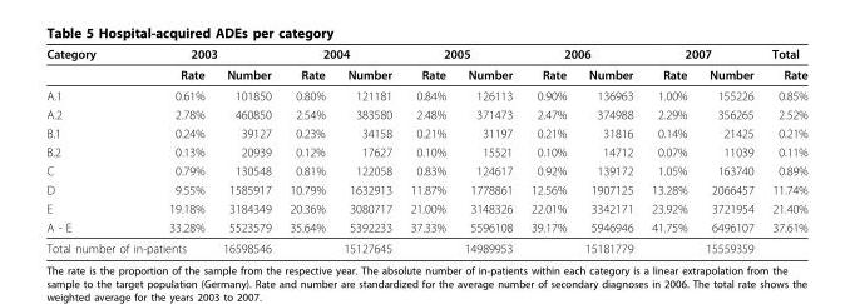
<table><thead><tr><td rowspan="2">Category</td><td colspan="2">2003</td><td colspan="2">2004</td><td colspan="2">2005</td><td colspan="2">2006</td><td colspan="2">2007</td><td rowspan="2">Total Rate</td></tr><tr><td>Rate</td><td>Number</td><td>Rate</td><td>Number</td><td>Rate</td><td>Number</td><td>Rate</td><td>Number</td><td>Rate</td><td>Number</td></tr></thead><tbody><tr><td>A.1</td><td>0.61%</td><td>101850</td><td>0.80%</td><td>121181</td><td>0.84%</td><td>126113</td><td>0.90%</td><td>136963</td><td>1.00%</td><td>155226</td><td>0.85%</td></tr><tr><td>A.2</td><td>2.78%</td><td>460850</td><td>2.54%</td><td>383580</td><td>2.48%</td><td>371473</td><td>2.47%</td><td>374988</td><td>2.29%</td><td>356265</td><td>2.52%</td></tr><tr><td>B.1</td><td>0.24%</td><td>39127</td><td>0.23%</td><td>34158</td><td>0.21%</td><td>31197</td><td>0.21%</td><td>31816</td><td>0.14%</td><td>21425</td><td>0.21%</td></tr><tr><td>B.2</td><td>0.13%</td><td>20939</td><td>0.12%</td><td>17627</td><td>0.10%</td><td>15521</td><td>0.10%</td><td>14712</td><td>0.07%</td><td>11039</td><td>0.11%</td></tr><tr><td>C</td><td>0.79%</td><td>130548</td><td>0.81%</td><td>122058</td><td>0.83%</td><td>124617</td><td>0.92%</td><td>139172</td><td>1.05%</td><td>163740</td><td>0.89%</td></tr><tr><td>D</td><td>9.55%</td><td>1585917</td><td>10.79%</td><td>1632913</td><td>11.87%</td><td>1778861</td><td>12.56%</td><td>1907125</td><td>13.28%</td><td>2066457</td><td>11.74%</td></tr><tr><td>E</td><td>19.18%</td><td>3184349</td><td>20.36%</td><td>3080717</td><td>21.00%</td><td>3148326</td><td>22.01%</td><td>3342171</td><td>23.92%</td><td>3721954</td><td>21.40%</td></tr><tr><td>A - E</td><td>33.28%</td><td>5523579</td><td>35.64%</td><td>5392233</td><td>37.33%</td><td>5596108</td><td>39.17%</td><td>5946946</td><td>41.75%</td><td>6496107</td><td>37.61%</td></tr><tr><td colspan="2">Total number of in-patients</td><td>16598546</td><td></td><td>15127645</td><td></td><td>14989953</td><td></td><td>15181779</td><td></td><td>15559359</td><td></td></tr></tbody></table>